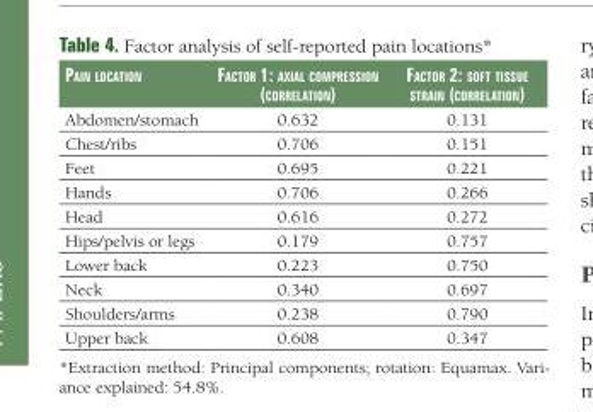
<table><thead><tr><td>Pain location</td><td>factor 1: axial comPreSSion (correlation)</td><td>factor 2: Soft tiSSue Strain (correlation)</td></tr></thead><tbody><tr><td>Abdomen/stomach</td><td>0.632</td><td>0.131</td></tr><tr><td>Chest/ribs</td><td>0.706</td><td>0.151</td></tr><tr><td>Feet</td><td>0.695</td><td>0.221</td></tr><tr><td>Hands</td><td>0.706</td><td>0.266</td></tr><tr><td>Head</td><td>0.616</td><td>0.272</td></tr><tr><td>Hips/pelvis or legs</td><td>0.179</td><td>0.757</td></tr><tr><td>Lower back</td><td>0.223</td><td>0.750</td></tr><tr><td>Neck</td><td>0.340</td><td>0.697</td></tr><tr><td>Shoulders/arms</td><td>0.238</td><td>0.790</td></tr><tr><td>Upper back</td><td>0.608</td><td>0.347</td></tr></tbody></table>